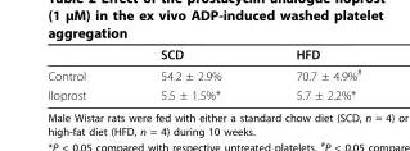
<table><thead><tr><td></td><td>SCD</td><td>HFD</td></tr></thead><tbody><tr><td>Control</td><td>54.2 ± 2.9%</td><td>70.7 ± 4.9%<sup>#</sup></td></tr><tr><td>Iloprost</td><td>5.5 ± 1.5%*</td><td>5.7 ± 2.2%*</td></tr></tbody></table>